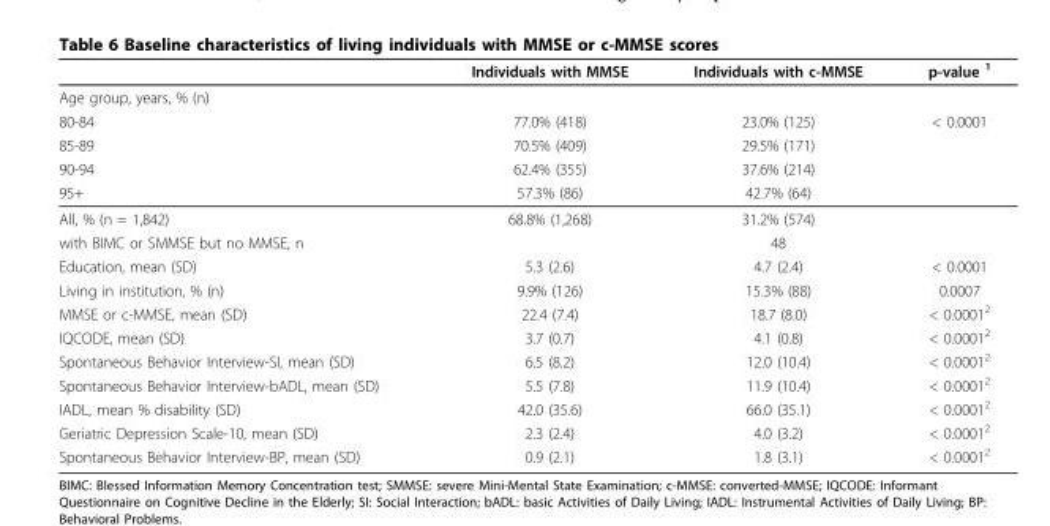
<table><thead><tr><td></td><td>Individuals with MMSE</td><td>Individuals with c-MMSE</td><td>p-value <sup>1</sup></td></tr></thead><tbody><tr><td colspan="4">Age group, years, % (n)</td></tr><tr><td>80-84</td><td>77.0% (418)</td><td>23.0% (125)</td><td>&lt; 0.0001</td></tr><tr><td>85-89</td><td>70.5% (409)</td><td>29.5% (171)</td><td></td></tr><tr><td>90-94</td><td>62.4% (355)</td><td>37.6% (214)</td><td></td></tr><tr><td>95+</td><td>57.3% (86)</td><td>42.7% (64)</td><td></td></tr><tr><td>All, % (n = 1,842)</td><td>68.8% (1,268)</td><td>31.2% (574)</td><td></td></tr><tr><td>with BIMC or SMMSE but no MMSE, n</td><td></td><td>48</td><td></td></tr><tr><td>Education, mean (SD)</td><td>5.3 (2.6)</td><td>4.7 (2.4)</td><td>&lt; 0.0001</td></tr><tr><td>Living in institution, % (n)</td><td>9.9% (126)</td><td>15.3% (88)</td><td>0.0007</td></tr><tr><td>MMSE or c-MMSE, mean (SD)</td><td>22.4 (7.4)</td><td>18.7 (8.0)</td><td>&lt; 0.0001<sup>2</sup></td></tr><tr><td>IQCODE, mean (SD)</td><td>3.7 (0.7)</td><td>4.1 (0.8)</td><td>&lt; 0.0001<sup>2</sup></td></tr><tr><td>Spontaneous Behavior Interview-SI, mean (SD)</td><td>6.5 (8.2)</td><td>12.0 (10.4)</td><td>&lt; 0.0001<sup>2</sup></td></tr><tr><td>Spontaneous Behavior Interview-bADL, mean (SD)</td><td>5.5 (7.8)</td><td>11.9 (10.4)</td><td>&lt; 0.0001<sup>2</sup></td></tr><tr><td>IADL, mean % disability (SD)</td><td>42.0 (35.6)</td><td>66.0 (35.1)</td><td>&lt; 0.0001<sup>2</sup></td></tr><tr><td>Geriatric Depression Scale-10, mean (SD)</td><td>2.3 (2.4)</td><td>4.0 (3.2)</td><td>&lt; 0.0001<sup>2</sup></td></tr><tr><td>Spontaneous Behavior Interview-BP, mean (SD)</td><td>0.9 (2.1)</td><td>1.8 (3.1)</td><td>&lt; 0.0001<sup>2</sup></td></tr></tbody></table>